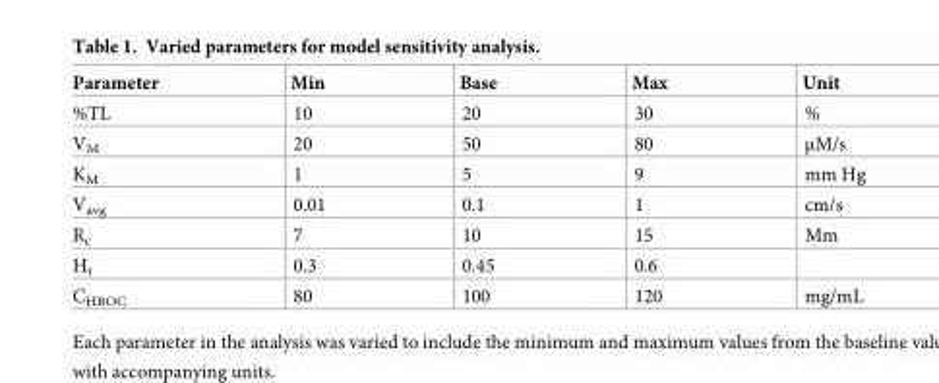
<table><thead><tr><td>Parameter</td><td>Min</td><td>Base</td><td>Max</td><td>Unit</td></tr></thead><tbody><tr><td>%TL</td><td>10</td><td>20</td><td>30</td><td>%</td></tr><tr><td>V<sub>M</sub></td><td>20</td><td>50</td><td>80</td><td>μM/s</td></tr><tr><td>K<sub>M</sub></td><td>1</td><td>5</td><td>9</td><td>mm Hg</td></tr><tr><td>V<sub>avg</sub></td><td>0.01</td><td>0.1</td><td>1</td><td>cm/s</td></tr><tr><td>R<sub>c</sub></td><td>7</td><td>10</td><td>15</td><td>Mm</td></tr><tr><td>H<sub>t</sub></td><td>0.3</td><td>0.45</td><td>0.6</td><td></td></tr><tr><td>C<sub>HBOC</sub></td><td>80</td><td>100</td><td>120</td><td>mg/mL</td></tr></tbody></table>